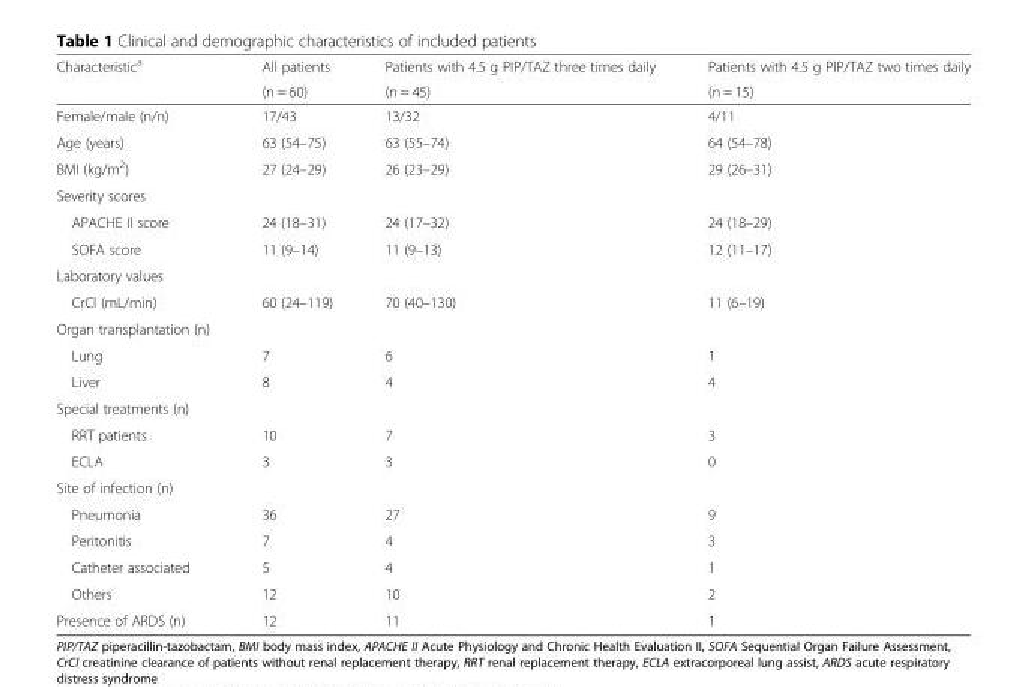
<table><thead><tr><td rowspan="2">Characteristic<sup>a</sup></td><td rowspan="2">All patients (n = 60)</td><td rowspan="2">Patients with 4.5 g PIP/TAZ three times daily (n = 45)</td><td rowspan="2">Patients with 4.5 g PIP/TAZ two times daily (n = 15)</td></tr><tr></tr></thead><tbody><tr><td>Female/male (n/n)</td><td>17/43</td><td>13/32</td><td>4/11</td></tr><tr><td>Age (years)</td><td>63 (54–75)</td><td>63 (55–74)</td><td>64 (54–78)</td></tr><tr><td>BMI (kg/m<sup>2</sup>)</td><td>27 (24–29)</td><td>26 (23–29)</td><td>29 (26–31)</td></tr><tr><td colspan="4">Severity scores</td></tr><tr><td>APACHE II score</td><td>24 (18–31)</td><td>24 (17–32)</td><td>24 (18–29)</td></tr><tr><td>SOFA score</td><td>11 (9–14)</td><td>11 (9–13)</td><td>12 (11–17)</td></tr><tr><td colspan="4">Laboratory values</td></tr><tr><td>CrCl (mL/min)</td><td>60 (24–119)</td><td>70 (40–130)</td><td>11 (6–19)</td></tr><tr><td colspan="4">Organ transplantation (n)</td></tr><tr><td>Lung</td><td>7</td><td>6</td><td>1</td></tr><tr><td>Liver</td><td>8</td><td>4</td><td>4</td></tr><tr><td colspan="4">Special treatments (n)</td></tr><tr><td>RRT patients</td><td>10</td><td>7</td><td>3</td></tr><tr><td>ECLA</td><td>3</td><td>3</td><td>0</td></tr><tr><td colspan="4">Site of infection (n)</td></tr><tr><td>Pneumonia</td><td>36</td><td>27</td><td>9</td></tr><tr><td>Peritonitis</td><td>7</td><td>4</td><td>3</td></tr><tr><td>Catheter associated</td><td>5</td><td>4</td><td>1</td></tr><tr><td>Others</td><td>12</td><td>10</td><td>2</td></tr><tr><td>Presence of ARDS (n)</td><td>12</td><td>11</td><td>1</td></tr></tbody></table>